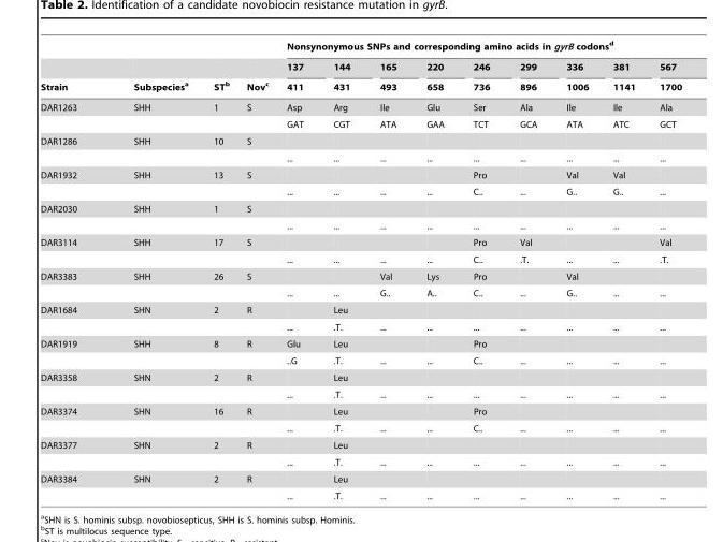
<table><thead><tr><td rowspan="3">Strain</td><td rowspan="3">Subspecies<sup>a</sup></td><td rowspan="3">ST<sup>b</sup></td><td rowspan="3">Nov<sup>c</sup></td><td colspan="9">Nonsynonymous SNPs and corresponding amino acids in gyrB codons<sup>d</sup></td></tr><tr><td rowspan="2">137 411</td><td rowspan="2">144 431</td><td rowspan="2">165 493</td><td rowspan="2">220 658</td><td rowspan="2">246 736</td><td rowspan="2">299 896</td><td rowspan="2">336 1006</td><td rowspan="2">381 1141</td><td rowspan="2">567 1700</td></tr><tr></tr></thead><tbody><tr><td rowspan="2">DAR1263</td><td>SHH</td><td>1</td><td>S</td><td>Asp</td><td>Arg</td><td>Ile</td><td>Glu</td><td>Ser</td><td>Ala</td><td>Ile</td><td>Ile</td><td>Ala</td></tr><tr><td></td><td></td><td></td><td>GAT</td><td>CGT</td><td>ATA</td><td>GAA</td><td>TCT</td><td>GCA</td><td>ATA</td><td>ATC</td><td>GCT</td></tr><tr><td rowspan="2">DAR1286</td><td>SHH</td><td>10</td><td>S</td><td></td><td></td><td></td><td></td><td></td><td></td><td></td><td></td><td></td></tr><tr><td></td><td></td><td></td><td>...</td><td>...</td><td>...</td><td>...</td><td>...</td><td>...</td><td>...</td><td>...</td><td>...</td></tr><tr><td rowspan="2">DAR1932</td><td>SHH</td><td>13</td><td>S</td><td></td><td></td><td></td><td></td><td>Pro</td><td></td><td>Val</td><td>Val</td><td></td></tr><tr><td></td><td></td><td></td><td>...</td><td>...</td><td>...</td><td>...</td><td>C..</td><td>...</td><td>G..</td><td>G..</td><td>...</td></tr><tr><td rowspan="2">DAR2030</td><td>SHH</td><td>1</td><td>S</td><td></td><td></td><td></td><td></td><td></td><td></td><td></td><td></td><td></td></tr><tr><td></td><td></td><td></td><td>...</td><td>...</td><td>...</td><td>...</td><td>...</td><td>...</td><td>...</td><td>...</td><td>...</td></tr><tr><td rowspan="2">DAR3114</td><td>SHH</td><td>17</td><td>S</td><td></td><td></td><td></td><td></td><td>Pro</td><td>Val</td><td></td><td></td><td>Val</td></tr><tr><td></td><td></td><td></td><td>...</td><td>...</td><td>...</td><td>...</td><td>C..</td><td>.T.</td><td>...</td><td>...</td><td>.T.</td></tr><tr><td rowspan="2">DAR3383</td><td>SHH</td><td>26</td><td>S</td><td></td><td></td><td>Val</td><td>Lys</td><td>Pro</td><td></td><td>Val</td><td></td><td></td></tr><tr><td></td><td></td><td></td><td>...</td><td>...</td><td>G..</td><td>A..</td><td>C..</td><td>...</td><td>G..</td><td>...</td><td>...</td></tr><tr><td rowspan="2">DAR1684</td><td>SHN</td><td>2</td><td>R</td><td></td><td>Leu</td><td></td><td></td><td></td><td></td><td></td><td></td><td></td></tr><tr><td></td><td></td><td></td><td>...</td><td>.T.</td><td>...</td><td>...</td><td>...</td><td>...</td><td>...</td><td>...</td><td>...</td></tr><tr><td rowspan="2">DAR1919</td><td>SHH</td><td>8</td><td>R</td><td>Glu</td><td>Leu</td><td></td><td></td><td>Pro</td><td></td><td></td><td></td><td></td></tr><tr><td></td><td></td><td></td><td>..G</td><td>.T.</td><td>...</td><td>...</td><td>C..</td><td>...</td><td>...</td><td>...</td><td>...</td></tr><tr><td rowspan="2">DAR3358</td><td>SHN</td><td>2</td><td>R</td><td></td><td>Leu</td><td></td><td></td><td></td><td></td><td></td><td></td><td></td></tr><tr><td></td><td></td><td></td><td>...</td><td>.T.</td><td>...</td><td>...</td><td>...</td><td>...</td><td>...</td><td>...</td><td>...</td></tr><tr><td rowspan="2">DAR3374</td><td>SHN</td><td>16</td><td>R</td><td></td><td>Leu</td><td></td><td></td><td>Pro</td><td></td><td></td><td></td><td></td></tr><tr><td></td><td></td><td></td><td>...</td><td>.T.</td><td>...</td><td>...</td><td>C..</td><td>...</td><td>...</td><td>...</td><td>...</td></tr><tr><td rowspan="2">DAR3377</td><td>SHN</td><td>2</td><td>R</td><td></td><td>Leu</td><td></td><td></td><td></td><td></td><td></td><td></td><td></td></tr><tr><td></td><td></td><td></td><td>...</td><td>.T.</td><td>...</td><td>...</td><td>...</td><td>...</td><td>...</td><td>...</td><td>...</td></tr><tr><td rowspan="2">DAR3384</td><td>SHN</td><td>2</td><td>R</td><td></td><td>Leu</td><td></td><td></td><td></td><td></td><td></td><td></td><td></td></tr><tr><td></td><td></td><td></td><td>...</td><td>.T.</td><td>...</td><td>...</td><td>...</td><td>...</td><td>...</td><td>...</td><td>...</td></tr></tbody></table>